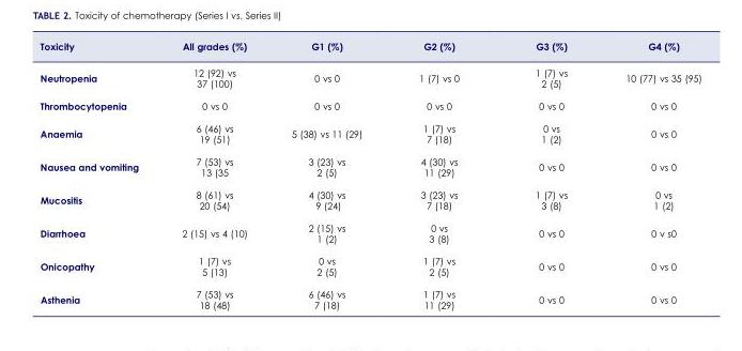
<table><thead><tr><td>Toxicity</td><td>All grades (%)</td><td>G1 (%)</td><td>G2 (%)</td><td>G3 (%)</td><td>G4 (%)</td></tr></thead><tbody><tr><td>Neutropenia</td><td>12 (92) vs 37 (100)</td><td>0 vs 0</td><td>1 (7) vs 0</td><td>1 (7) vs 2 (5)</td><td>10 (77) vs 35 (95)</td></tr><tr><td>Thrombocytopenia</td><td>0 vs 0</td><td>0 vs 0</td><td>0 vs 0</td><td>0 vs 0</td><td>0 vs 0</td></tr><tr><td>Anaemia</td><td>6 (46) vs 19 (51)</td><td>5 (38) vs 11 (29)</td><td>1 (7) vs 7 (18)</td><td>0 vs 1 (2)</td><td>0 vs 0</td></tr><tr><td>Nausea and vomiting</td><td>7 (53) vs 13 (35</td><td>3 (23) vs 2 (5)</td><td>4 (30) vs 11 (29)</td><td>0 vs 0</td><td>0 vs 0</td></tr><tr><td>Mucositis</td><td>8 (61) vs 20 (54)</td><td>4 (30) vs 9 (24)</td><td>3 (23) vs 7 (18)</td><td>1 (7) vs 3 (8)</td><td>0 vs 1 (2)</td></tr><tr><td>Diarrhoea</td><td>2 (15) vs 4 (10)</td><td>2 (15) vs 1 (2)</td><td>0 vs 3 (8)</td><td>0 vs 0</td><td>0 v s0</td></tr><tr><td>Onicopathy</td><td>1 (7) vs 5 (13)</td><td>0 vs 2 (5)</td><td>1 (7) vs 2 (5)</td><td>0 vs 0</td><td>0 vs 0</td></tr><tr><td>Asthenia</td><td>7 (53) vs 18 (48)</td><td>6 (46) vs 7 (18)</td><td>1 (7) vs 11 (29)</td><td>0 vs 0</td><td>0 vs 0</td></tr></tbody></table>